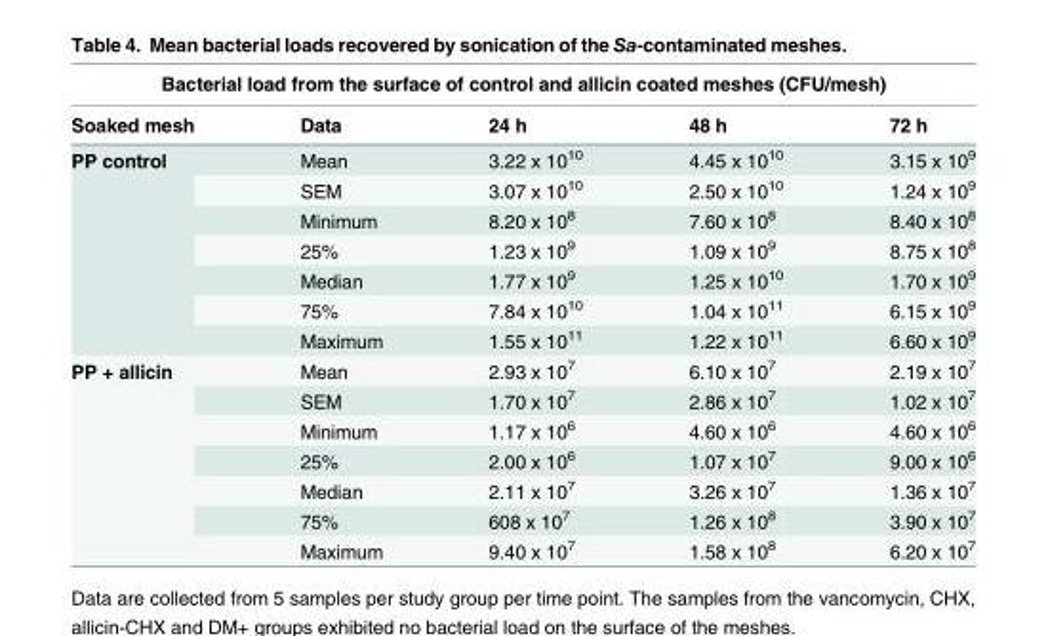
<table><thead><tr><td colspan="5">Bacterial load from the surface of control and allicin coated meshes (CFU/mesh)</td></tr><tr><td>Soaked mesh</td><td>Data</td><td>24 h</td><td>48 h</td><td>72 h</td></tr></thead><tbody><tr><td rowspan="7">PP control</td><td>Mean</td><td>3.22 x 10<sup>10</sup></td><td>4.45 x 10<sup>10</sup></td><td>3.15 x 10<sup>9</sup></td></tr><tr><td>SEM</td><td>3.07 x 10<sup>10</sup></td><td>2.50 x 10<sup>10</sup></td><td>1.24 x 10<sup>9</sup></td></tr><tr><td>Minimum</td><td>8.20 x 10<sup>8</sup></td><td>7.60 x 10<sup>8</sup></td><td>8.40 x 10<sup>8</sup></td></tr><tr><td>25%</td><td>1.23 x 10<sup>9</sup></td><td>1.09 x 10<sup>9</sup></td><td>8.75 x 10<sup>8</sup></td></tr><tr><td>Median</td><td>1.77 x 10<sup>9</sup></td><td>1.25 x 10<sup>10</sup></td><td>1.70 x 10<sup>9</sup></td></tr><tr><td>75%</td><td>7.84 x 10<sup>10</sup></td><td>1.04 x 10<sup>11</sup></td><td>6.15 x 10<sup>9</sup></td></tr><tr><td>Maximum</td><td>1.55 x 10<sup>11</sup></td><td>1.22 x 10<sup>11</sup></td><td>6.60 x 10<sup>9</sup></td></tr><tr><td rowspan="7">PP + allicin</td><td>Mean</td><td>2.93 x 10<sup>7</sup></td><td>6.10 x 10<sup>7</sup></td><td>2.19 x 10<sup>7</sup></td></tr><tr><td>SEM</td><td>1.70 x 10<sup>7</sup></td><td>2.86 x 10<sup>7</sup></td><td>1.02 x 10<sup>7</sup></td></tr><tr><td>Minimum</td><td>1.17 x 10<sup>6</sup></td><td>4.60 x 10<sup>6</sup></td><td>4.60 x 10<sup>6</sup></td></tr><tr><td>25%</td><td>2.00 x 10<sup>6</sup></td><td>1.07 x 10<sup>7</sup></td><td>9.00 x 10<sup>6</sup></td></tr><tr><td>Median</td><td>2.11 x 10<sup>7</sup></td><td>3.26 x 10<sup>7</sup></td><td>1.36 x 10<sup>7</sup></td></tr><tr><td>75%</td><td>608 x 10<sup>7</sup></td><td>1.26 x 10<sup>8</sup></td><td>3.90 x 10<sup>7</sup></td></tr><tr><td>Maximum</td><td>9.40 x 10<sup>7</sup></td><td>1.58 x 10<sup>8</sup></td><td>6.20 x 10<sup>7</sup></td></tr></tbody></table>